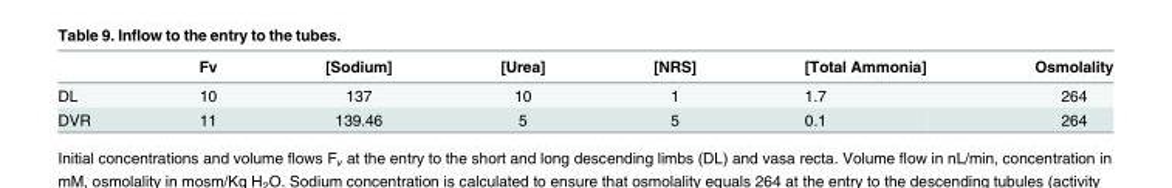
<table><thead><tr><td></td><td>Fv</td><td>[Sodium]</td><td>[Urea]</td><td>[NRS]</td><td>[Total Ammonia]</td><td>Osmolality</td></tr></thead><tbody><tr><td>DL</td><td>10</td><td>137</td><td>10</td><td>1</td><td>1.7</td><td>264</td></tr><tr><td>DVR</td><td>11</td><td>139.46</td><td>5</td><td>5</td><td>0.1</td><td>264</td></tr></tbody></table>